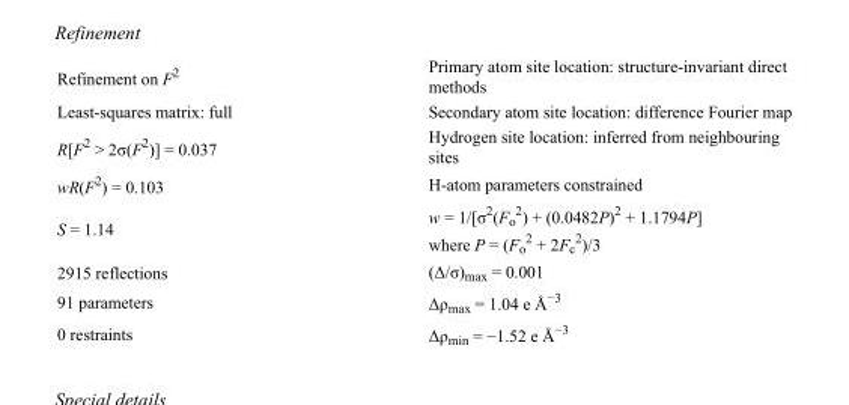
<table><tbody><tr><td>Refinement on F<sup>2</sup></td><td>Primary atom site location: structure-invariant direct methods</td></tr><tr><td>Least-squares matrix: full</td><td>Secondary atom site location: difference Fourier map</td></tr><tr><td>R[F<sup>2</sup> &gt; 2σ(F<sup>2</sup>)] = 0.037</td><td>Hydrogen site location: inferred from neighbouring sites</td></tr><tr><td>wR(F<sup>2</sup>) = 0.103</td><td>H-atom parameters constrained</td></tr><tr><td>S = 1.14</td><td>w = 1/[σ<sup>2</sup>(F<sub>o</sub> <sup>2</sup>) + (0.0482P)<sup>2</sup> + 1.1794P] where P = (F<sub>o</sub> <sup>2</sup> + 2F<sub>c</sub> <sup>2</sup>)/3</td></tr><tr><td>2915 reflections</td><td>(Δ/σ)<sub>max</sub> = 0.001</td></tr><tr><td>91 parameters</td><td>Δρ<sub>max</sub> = 1.04 e Å<sup>−3</sup></td></tr><tr><td>0 restraints</td><td>Δρ<sub>min</sub> = −1.52 e Å<sup>−3</sup></td></tr></tbody></table>